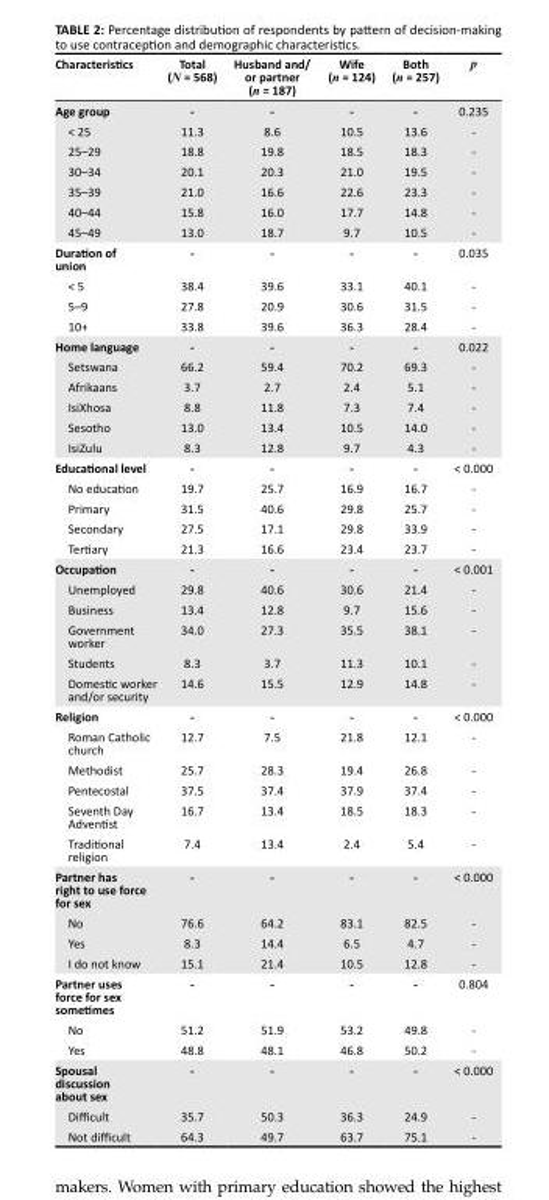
<table><thead><tr><td>Characteristics</td><td>Total (N = 568)</td><td>Husband and/ or partner (n = 187)</td><td>Wife (n = 124)</td><td>Both (n = 257)</td><td>p</td></tr></thead><tbody><tr><td>Age group</td><td>-</td><td>-</td><td>-</td><td>-</td><td>0.235</td></tr><tr><td>&lt; 25</td><td>11.3</td><td>8.6</td><td>10.5</td><td>13.6</td><td>-</td></tr><tr><td>25–29</td><td>18.8</td><td>19.8</td><td>18.5</td><td>18.3</td><td>-</td></tr><tr><td>30–34</td><td>20.1</td><td>20.3</td><td>21.0</td><td>19.5</td><td>-</td></tr><tr><td>35–39</td><td>21.0</td><td>16.6</td><td>22.6</td><td>23.3</td><td>-</td></tr><tr><td>40–44</td><td>15.8</td><td>16.0</td><td>17.7</td><td>14.8</td><td>-</td></tr><tr><td>45–49</td><td>13.0</td><td>18.7</td><td>9.7</td><td>10.5</td><td>-</td></tr><tr><td>Duration of union</td><td>-</td><td>-</td><td>-</td><td>-</td><td>0.035</td></tr><tr><td>&lt; 5</td><td>38.4</td><td>39.6</td><td>33.1</td><td>40.1</td><td>-</td></tr><tr><td>5–9</td><td>27.8</td><td>20.9</td><td>30.6</td><td>31.5</td><td>-</td></tr><tr><td>10+</td><td>33.8</td><td>39.6</td><td>36.3</td><td>28.4</td><td>-</td></tr><tr><td>Home language</td><td>-</td><td>-</td><td>-</td><td>-</td><td>0.022</td></tr><tr><td>Setswana</td><td>66.2</td><td>59.4</td><td>70.2</td><td>69.3</td><td>-</td></tr><tr><td>Afrikaans</td><td>3.7</td><td>2.7</td><td>2.4</td><td>5.1</td><td>-</td></tr><tr><td>IsiXhosa</td><td>8.8</td><td>11.8</td><td>7.3</td><td>7.4</td><td>-</td></tr><tr><td>Sesotho</td><td>13.0</td><td>13.4</td><td>10.5</td><td>14.0</td><td>-</td></tr><tr><td>IsiZulu</td><td>8.3</td><td>12.8</td><td>9.7</td><td>4.3</td><td>-</td></tr><tr><td>Educational level</td><td>-</td><td>-</td><td>-</td><td>-</td><td>&lt; 0.000</td></tr><tr><td>No education</td><td>19.7</td><td>25.7</td><td>16.9</td><td>16.7</td><td>-</td></tr><tr><td>Primary</td><td>31.5</td><td>40.6</td><td>29.8</td><td>25.7</td><td>-</td></tr><tr><td>Secondary</td><td>27.5</td><td>17.1</td><td>29.8</td><td>33.9</td><td>-</td></tr><tr><td>Tertiary</td><td>21.3</td><td>16.6</td><td>23.4</td><td>23.7</td><td>-</td></tr><tr><td>Occupation</td><td>-</td><td>-</td><td>-</td><td>-</td><td>&lt; 0.001</td></tr><tr><td>Unemployed</td><td>29.8</td><td>40.6</td><td>30.6</td><td>21.4</td><td>-</td></tr><tr><td>Business</td><td>13.4</td><td>12.8</td><td>9.7</td><td>15.6</td><td>-</td></tr><tr><td>Government worker</td><td>34.0</td><td>27.3</td><td>35.5</td><td>38.1</td><td>-</td></tr><tr><td>Students</td><td>8.3</td><td>3.7</td><td>11.3</td><td>10.1</td><td>-</td></tr><tr><td>Domestic worker and/or security</td><td>14.6</td><td>15.5</td><td>12.9</td><td>14.8</td><td>-</td></tr><tr><td>Religion</td><td>-</td><td>-</td><td>-</td><td>-</td><td>&lt; 0.000</td></tr><tr><td>Roman Catholic church</td><td>12.7</td><td>7.5</td><td>21.8</td><td>12.1</td><td>-</td></tr><tr><td>Methodist</td><td>25.7</td><td>28.3</td><td>19.4</td><td>26.8</td><td>-</td></tr><tr><td>Pentecostal</td><td>37.5</td><td>37.4</td><td>37.9</td><td>37.4</td><td>-</td></tr><tr><td>Seventh Day Adventist</td><td>16.7</td><td>13.4</td><td>18.5</td><td>18.3</td><td>-</td></tr><tr><td>Traditional religion</td><td>7.4</td><td>13.4</td><td>2.4</td><td>5.4</td><td>-</td></tr><tr><td>Partner has right to use force for sex</td><td>-</td><td>-</td><td>-</td><td>-</td><td>&lt; 0.000</td></tr><tr><td>No</td><td>76.6</td><td>64.2</td><td>83.1</td><td>82.5</td><td>-</td></tr><tr><td>Yes</td><td>8.3</td><td>14.4</td><td>6.5</td><td>4.7</td><td>-</td></tr><tr><td>I do not know</td><td>15.1</td><td>21.4</td><td>10.5</td><td>12.8</td><td>-</td></tr><tr><td>Partner uses force for sex sometimes</td><td>-</td><td>-</td><td>-</td><td>-</td><td>0.804</td></tr><tr><td>No</td><td>51.2</td><td>51.9</td><td>53.2</td><td>49.8</td><td>-</td></tr><tr><td>Yes</td><td>48.8</td><td>48.1</td><td>46.8</td><td>50.2</td><td>-</td></tr><tr><td>Spousal discussion about sex</td><td>-</td><td>-</td><td>-</td><td>-</td><td>&lt; 0.000</td></tr><tr><td>Difficult</td><td>35.7</td><td>50.3</td><td>36.3</td><td>24.9</td><td>-</td></tr><tr><td>Not difficult</td><td>64.3</td><td>49.7</td><td>63.7</td><td>75.1</td><td>-</td></tr></tbody></table>